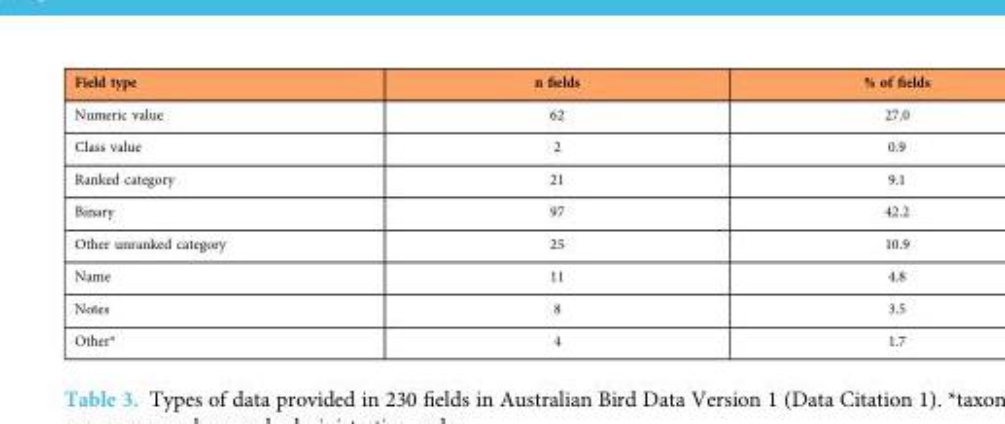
<table><thead><tr><td>Field type</td><td>n fields</td><td>% of fields</td></tr></thead><tbody><tr><td>Numeric value</td><td>62</td><td>27.0</td></tr><tr><td>Class value</td><td>2</td><td>0.9</td></tr><tr><td>Ranked category</td><td>21</td><td>9.1</td></tr><tr><td>Binary</td><td>97</td><td>42.2</td></tr><tr><td>Other unranked category</td><td>25</td><td>10.9</td></tr><tr><td>Name</td><td>11</td><td>4.8</td></tr><tr><td>Notes</td><td>8</td><td>3.5</td></tr><tr><td>Other*</td><td>4</td><td>1.7</td></tr></tbody></table>